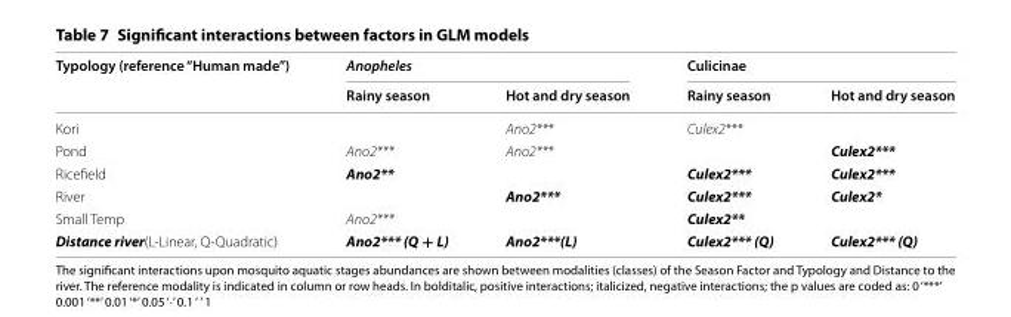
<table><thead><tr><td rowspan="2">Typology (reference “Human made”)</td><td colspan="2">Anopheles</td><td colspan="2">Culicinae</td></tr><tr><td>Rainy season</td><td>Hot and dry season</td><td>Rainy season</td><td>Hot and dry season</td></tr></thead><tbody><tr><td>Kori</td><td></td><td>Ano2***</td><td>Culex2***</td><td></td></tr><tr><td>Pond</td><td>Ano2***</td><td>Ano2***</td><td></td><td>Culex2***</td></tr><tr><td>Ricefield</td><td>Ano2**</td><td></td><td>Culex2***</td><td>Culex2***</td></tr><tr><td>River</td><td></td><td>Ano2***</td><td>Culex2***</td><td>Culex2*</td></tr><tr><td>Small Temp</td><td>Ano2***</td><td></td><td>Culex2**</td><td></td></tr><tr><td>Distance river(L‑Linear, Q‑Quadratic)</td><td>Ano2*** (Q + L)</td><td>Ano2***(L)</td><td>Culex2*** (Q)</td><td>Culex2*** (Q)</td></tr></tbody></table>